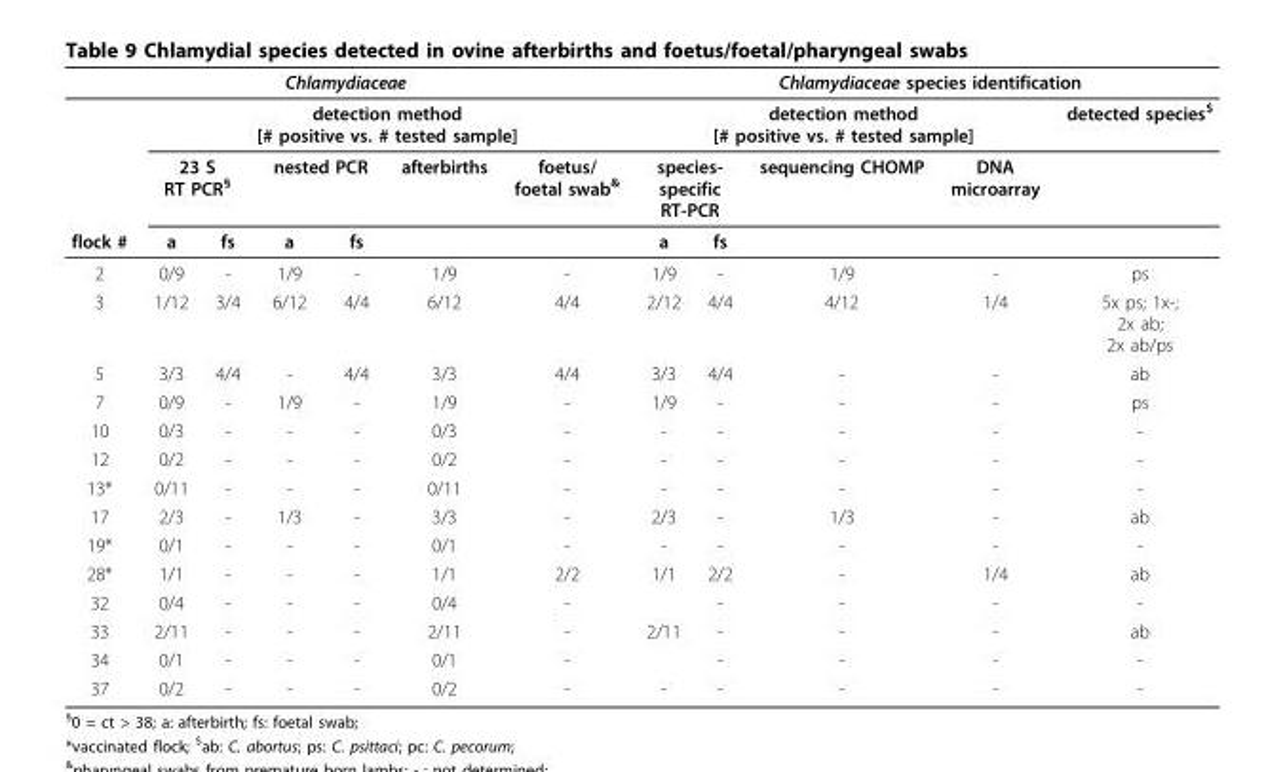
<table><thead><tr><td colspan="7">Chlamydiaceae</td><td colspan="5">Chlamydiaceae species identification</td></tr><tr><td rowspan="3">flock #</td><td colspan="6">detection method [# positive vs. # tested sample]</td><td colspan="4">detection method [# positive vs. # tested sample]</td><td rowspan="3">detected species<sup>$</sup></td></tr><tr><td colspan="2">23 S RT PCR<sup>§</sup></td><td colspan="2">nested PCR</td><td rowspan="2">afterbirths</td><td rowspan="2">foetus/ foetal swab<sup>&amp;</sup></td><td colspan="2">species- specific RT-PCR</td><td rowspan="2">sequencing CHOMP</td><td rowspan="2">DNA microarray</td></tr><tr><td>a</td><td>fs</td><td>a</td><td>fs</td><td>a</td><td>fs</td></tr></thead><tbody><tr><td>2</td><td>0/9</td><td>-</td><td>1/9</td><td>-</td><td>1/9</td><td>-</td><td>1/9</td><td>-</td><td>1/9</td><td>-</td><td>ps</td></tr><tr><td>3</td><td>1/12</td><td>3/4</td><td>6/12</td><td>4/4</td><td>6/12</td><td>4/4</td><td>2/12</td><td>4/4</td><td>4/12</td><td>1/4</td><td>5x ps; 1x-; 2x ab; 2x ab/ps</td></tr><tr><td>5</td><td>3/3</td><td>4/4</td><td>-</td><td>4/4</td><td>3/3</td><td>4/4</td><td>3/3</td><td>4/4</td><td>-</td><td>-</td><td>ab</td></tr><tr><td>7</td><td>0/9</td><td>-</td><td>1/9</td><td>-</td><td>1/9</td><td>-</td><td>1/9</td><td>-</td><td>-</td><td>-</td><td>ps</td></tr><tr><td>10</td><td>0/3</td><td>-</td><td>-</td><td>-</td><td>0/3</td><td>-</td><td>-</td><td>-</td><td>-</td><td>-</td><td>-</td></tr><tr><td>12</td><td>0/2</td><td>-</td><td>-</td><td>-</td><td>0/2</td><td>-</td><td>-</td><td>-</td><td>-</td><td>-</td><td>-</td></tr><tr><td>13*</td><td>0/11</td><td>-</td><td>-</td><td>-</td><td>0/11</td><td>-</td><td>-</td><td>-</td><td>-</td><td>-</td><td>-</td></tr><tr><td>17</td><td>2/3</td><td>-</td><td>1/3</td><td>-</td><td>3/3</td><td>-</td><td>2/3</td><td>-</td><td>1/3</td><td>-</td><td>ab</td></tr><tr><td>19*</td><td>0/1</td><td>-</td><td>-</td><td>-</td><td>0/1</td><td>-</td><td>-</td><td>-</td><td>-</td><td>-</td><td>-</td></tr><tr><td>28*</td><td>1/1</td><td>-</td><td>-</td><td>-</td><td>1/1</td><td>2/2</td><td>1/1</td><td>2/2</td><td>-</td><td>1/4</td><td>ab</td></tr><tr><td>32</td><td>0/4</td><td>-</td><td>-</td><td>-</td><td>0/4</td><td>-</td><td></td><td>-</td><td>-</td><td>-</td><td>-</td></tr><tr><td>33</td><td>2/11</td><td>-</td><td>-</td><td>-</td><td>2/11</td><td>-</td><td>2/11</td><td>-</td><td>-</td><td>-</td><td>ab</td></tr><tr><td>34</td><td>0/1</td><td>-</td><td>-</td><td>-</td><td>0/1</td><td>-</td><td></td><td>-</td><td>-</td><td>-</td><td>-</td></tr><tr><td>37</td><td>0/2</td><td>-</td><td>-</td><td>-</td><td>0/2</td><td>-</td><td>-</td><td>-</td><td>-</td><td>-</td><td>-</td></tr></tbody></table>